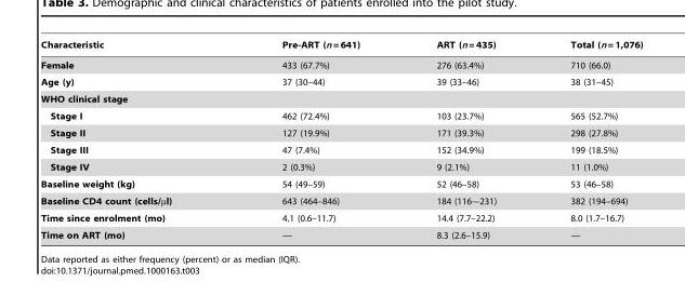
<table><thead><tr><td>Characteristic</td><td>Pre-ART (n = 641)</td><td>ART (n = 435)</td><td>Total (n = 1,076)</td></tr></thead><tbody><tr><td>Female</td><td>433 (67.7%)</td><td>276 (63.4%)</td><td>710 (66.0)</td></tr><tr><td>Age (y)</td><td>37 (30–44)</td><td>39 (33–46)</td><td>38 (31–45)</td></tr><tr><td colspan="4">WHO clinical stage</td></tr><tr><td>Stage I</td><td>462 (72.4%)</td><td>103 (23.7%)</td><td>565 (52.7%)</td></tr><tr><td>Stage II</td><td>127 (19.9%)</td><td>171 (39.3%)</td><td>298 (27.8%)</td></tr><tr><td>Stage III</td><td>47 (7.4%)</td><td>152 (34.9%)</td><td>199 (18.5%)</td></tr><tr><td>Stage IV</td><td>2 (0.3%)</td><td>9 (2.1%)</td><td>11 (1.0%)</td></tr><tr><td>Baseline weight (kg)</td><td>54 (49–59)</td><td>52 (46–58)</td><td>53 (46–58)</td></tr><tr><td>Baseline CD4 count (cells/µl)</td><td>643 (464–846)</td><td>184 (116-–231)</td><td>382 (194–694)</td></tr><tr><td>Time since enrolment (mo)</td><td>4.1 (0.6–11.7)</td><td>14.4 (7.7–22.2)</td><td>8.0 (1.7–16.7)</td></tr><tr><td>Time on ART (mo)</td><td>—</td><td>8.3 (2.6–15.9)</td><td>—</td></tr></tbody></table>